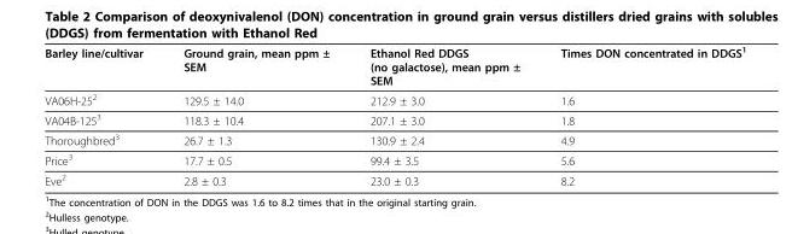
<table><thead><tr><td>Barley line/cultivar</td><td>Ground grain, mean ppm ± SEM</td><td>Ethanol Red DDGS (no galactose), mean ppm ± SEM</td><td>Times DON concentrated in DDGS<sup>1</sup></td></tr></thead><tbody><tr><td>VA06H-25<sup>2</sup></td><td>129.5 ± 14.0</td><td>212.9 ± 3.0</td><td>1.6</td></tr><tr><td>VA04B-125<sup>3</sup></td><td>118.3 ± 10.4</td><td>207.1 ± 3.0</td><td>1.8</td></tr><tr><td>Thoroughbred<sup>3</sup></td><td>26.7 ± 1.3</td><td>130.9 ± 2.4</td><td>4.9</td></tr><tr><td>Price<sup>3</sup></td><td>17.7 ± 0.5</td><td>99.4 ± 3.5</td><td>5.6</td></tr><tr><td>Eve<sup>2</sup></td><td>2.8 ± 0.3</td><td>23.0 ± 0.3</td><td>8.2</td></tr></tbody></table>